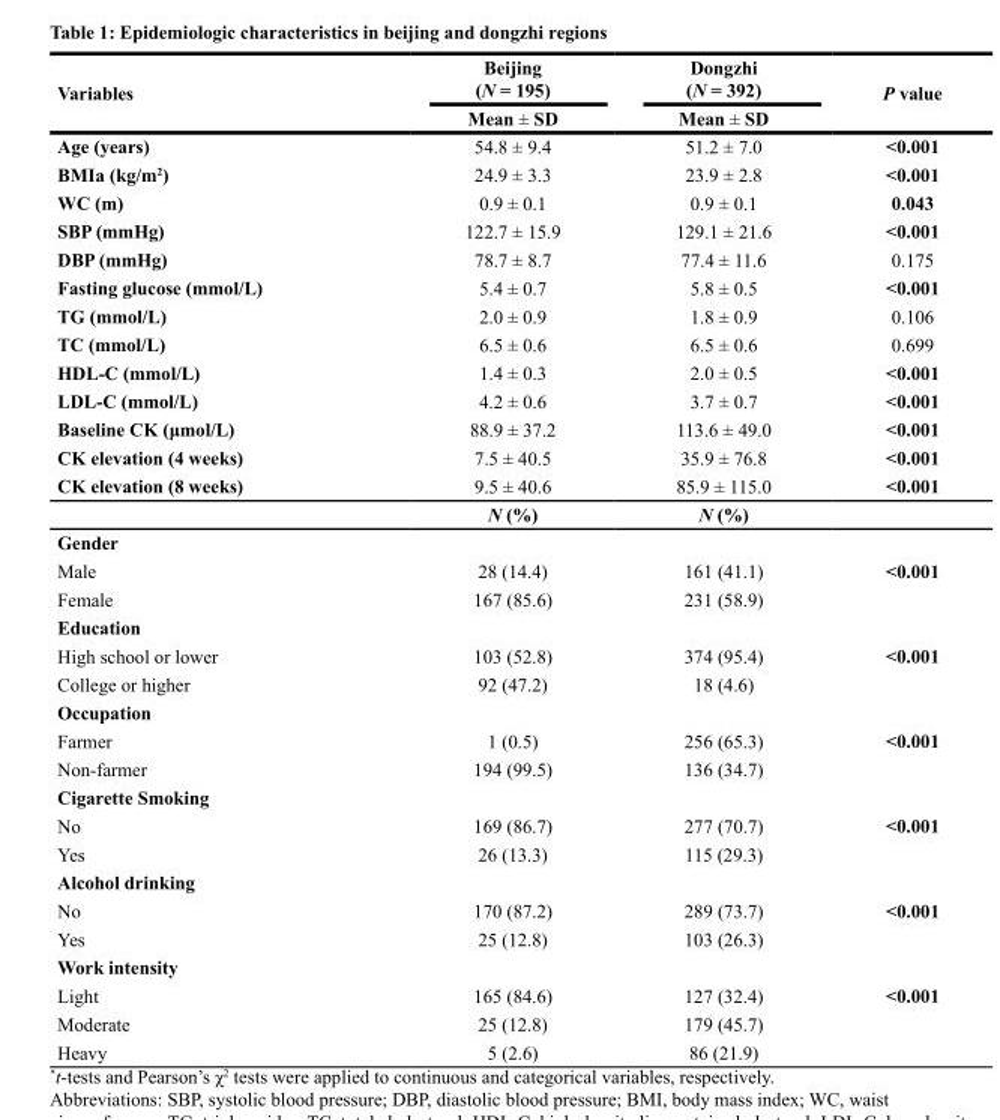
<table><thead><tr><td rowspan="2">Variables</td><td rowspan="2">Beijing (N = 195) Mean ± SD</td><td rowspan="2">Dongzhi (N = 392) Mean ± SD</td><td rowspan="2">P value</td></tr><tr></tr></thead><tbody><tr><td>Age (years)</td><td>54.8 ± 9.4</td><td>51.2 ± 7.0</td><td>&lt;0.001</td></tr><tr><td>BMIa (kg/m<sup>2</sup>)</td><td>24.9 ± 3.3</td><td>23.9 ± 2.8</td><td>&lt;0.001</td></tr><tr><td>WC (m)</td><td>0.9 ± 0.1</td><td>0.9 ± 0.1</td><td>0.043</td></tr><tr><td>SBP (mmHg)</td><td>122.7 ± 15.9</td><td>129.1 ± 21.6</td><td>&lt;0.001</td></tr><tr><td>DBP (mmHg)</td><td>78.7 ± 8.7</td><td>77.4 ± 11.6</td><td>0.175</td></tr><tr><td>Fasting glucose (mmol/L)</td><td>5.4 ± 0.7</td><td>5.8 ± 0.5</td><td>&lt;0.001</td></tr><tr><td>TG (mmol/L)</td><td>2.0 ± 0.9</td><td>1.8 ± 0.9</td><td>0.106</td></tr><tr><td>TC (mmol/L)</td><td>6.5 ± 0.6</td><td>6.5 ± 0.6</td><td>0.699</td></tr><tr><td>HDL-C (mmol/L)</td><td>1.4 ± 0.3</td><td>2.0 ± 0.5</td><td>&lt;0.001</td></tr><tr><td>LDL-C (mmol/L)</td><td>4.2 ± 0.6</td><td>3.7 ± 0.7</td><td>&lt;0.001</td></tr><tr><td>Baseline CK (μmol/L)</td><td>88.9 ± 37.2</td><td>113.6 ± 49.0</td><td>&lt;0.001</td></tr><tr><td>CK elevation (4 weeks)</td><td>7.5 ± 40.5</td><td>35.9 ± 76.8</td><td>&lt;0.001</td></tr><tr><td rowspan="2">CK elevation (8 weeks)</td><td>9.5 ± 40.6</td><td>85.9 ± 115.0</td><td>&lt;0.001</td></tr><tr><td>N (%)</td><td>N (%)</td><td></td></tr><tr><td colspan="4">Gender</td></tr><tr><td>Male</td><td>28 (14.4)</td><td>161 (41.1)</td><td>&lt;0.001</td></tr><tr><td>Female</td><td>167 (85.6)</td><td>231 (58.9)</td><td></td></tr><tr><td colspan="4">Education</td></tr><tr><td>High school or lower</td><td>103 (52.8)</td><td>374 (95.4)</td><td>&lt;0.001</td></tr><tr><td>College or higher</td><td>92 (47.2)</td><td>18 (4.6)</td><td></td></tr><tr><td colspan="4">Occupation</td></tr><tr><td>Farmer</td><td>1 (0.5)</td><td>256 (65.3)</td><td>&lt;0.001</td></tr><tr><td>Non-farmer</td><td>194 (99.5)</td><td>136 (34.7)</td><td></td></tr><tr><td colspan="4">Cigarette Smoking</td></tr><tr><td>No</td><td>169 (86.7)</td><td>277 (70.7)</td><td>&lt;0.001</td></tr><tr><td>Yes</td><td>26 (13.3)</td><td>115 (29.3)</td><td></td></tr><tr><td colspan="4">Alcohol drinking</td></tr><tr><td>No</td><td>170 (87.2)</td><td>289 (73.7)</td><td>&lt;0.001</td></tr><tr><td>Yes</td><td>25 (12.8)</td><td>103 (26.3)</td><td></td></tr><tr><td colspan="4">Work intensity</td></tr><tr><td>Light</td><td>165 (84.6)</td><td>127 (32.4)</td><td>&lt;0.001</td></tr><tr><td>Moderate</td><td>25 (12.8)</td><td>179 (45.7)</td><td></td></tr><tr><td>Heavy</td><td>5 (2.6)</td><td>86 (21.9)</td><td></td></tr></tbody></table>